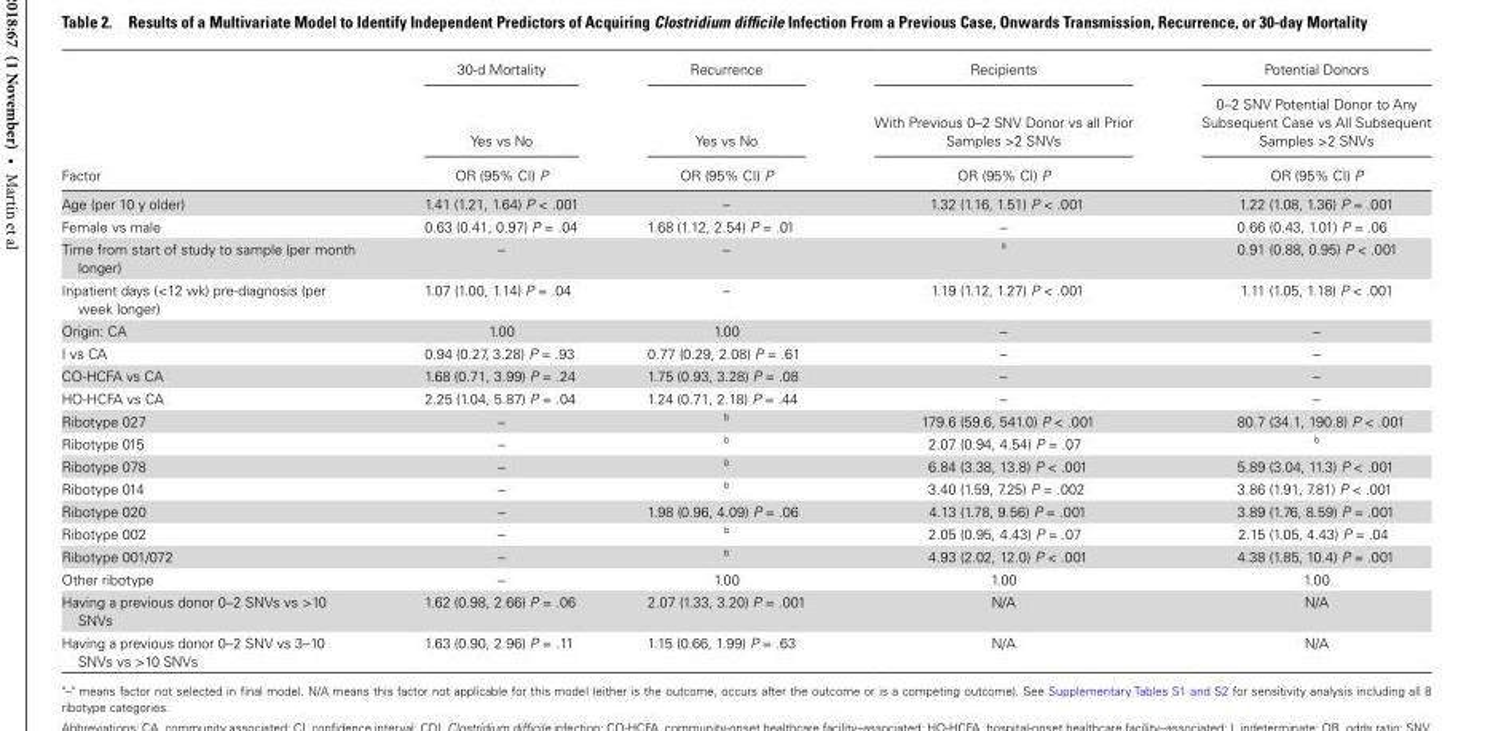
<table><thead><tr><td rowspan="3">Factor</td><td rowspan="3">30-d Mortality Yes vs No OR (95% CI) P</td><td rowspan="3">Recurrence Yes vs No OR (95% CI) P</td><td rowspan="3">Recipients With Previous 0–2 SNV Donor vs all Prior Samples &gt;2 SNVs OR (95% CI) P</td><td rowspan="3">Potential Donors 0–2 SNV Potential Donor to Any Subsequent Case vs All Subsequent Samples &gt;2 SNVs OR (95% CI) P</td></tr><tr></tr><tr></tr></thead><tbody><tr><td>Age (per 10 y older)</td><td>1.41 (1.21, 1.64) P &lt; .001</td><td>–</td><td>1.32 (1.16, 1.51) P &lt; .001</td><td>1.22 (1.08, 1.36) P = .001</td></tr><tr><td>Female vs male</td><td>0.63 (0.41, 0.97) P = .04</td><td>1.68 (1.12, 2.54) P = .01</td><td>–</td><td>0.66 (0.43, 1.01) P = .06</td></tr><tr><td>Time from start of study to sample (per month longer)</td><td>–</td><td>–</td><td><sup>a</sup></td><td>0.91 (0.88, 0.95) P &lt; .001</td></tr><tr><td>Inpatient days (&lt;12 wk) pre-diagnosis (per week longer)</td><td>1.07 (1.00, 1.14) P = .04</td><td>–</td><td>1.19 (1.12, 1.27) P &lt; .001</td><td>1.11 (1.05, 1.18) P &lt; .001</td></tr><tr><td>Origin: CA</td><td>1.00</td><td>1.00</td><td>–</td><td>–</td></tr><tr><td>I vs CA</td><td>0.94 (0.27, 3.28) P = .93</td><td>0.77 (0.29, 2.08) P = .61</td><td>–</td><td>–</td></tr><tr><td>CO-HCFA vs CA</td><td>1.68 (0.71, 3.99) P = .24</td><td>1.75 (0.93, 3.28) P = .08</td><td>–</td><td>–</td></tr><tr><td>HO-HCFA vs CA</td><td>2.25 (1.04, 5.87) P = .04</td><td>1.24 (0.71, 2.18) P = .44</td><td>–</td><td>–</td></tr><tr><td>Ribotype 027</td><td>–</td><td><sup>b</sup></td><td>179.6 (59.6, 541.0) P &lt; .001</td><td>80.7 (34.1, 190.8) P &lt; .001</td></tr><tr><td>Ribotype 015</td><td>–</td><td><sup>b</sup></td><td>2.07 (0.94, 4.54) P = .07</td><td><sup>b</sup></td></tr><tr><td>Ribotype 078</td><td>–</td><td><sup>b</sup></td><td>6.84 (3.38, 13.8) P &lt; .001</td><td>5.89 (3.04, 11.3) P &lt; .001</td></tr><tr><td>Ribotype 014</td><td>–</td><td><sup>b</sup></td><td>3.40 (1.59, 7.25) P = .002</td><td>3.86 (1.91, 7.81) P &lt; .001</td></tr><tr><td>Ribotype 020</td><td>–</td><td>1.98 (0.96, 4.09) P = .06</td><td>4.13 (1.78, 9.56) P = .001</td><td>3.89 (1.76, 8.59) P = .001</td></tr><tr><td>Ribotype 002</td><td>–</td><td><sup>b</sup></td><td>2.05 (0.95, 4.43) P = .07</td><td>2.15 (1.05, 4.43) P = .04</td></tr><tr><td>Ribotype 001/072</td><td>–</td><td><sup>b</sup></td><td>4.93 (2.02, 12.0) P &lt; .001</td><td>4.38 (1.85, 10.4) P = .001</td></tr><tr><td>Other ribotype</td><td>–</td><td>1.00</td><td>1.00</td><td>1.00</td></tr><tr><td>Having a previous donor 0–2 SNVs vs &gt;10 SNVs</td><td>1.62 (0.98, 2.66) P = .06</td><td>2.07 (1.33, 3.20) P = .001</td><td>N/A</td><td>N/A</td></tr><tr><td>Having a previous donor 0–2 SNV vs 3–10 SNVs vs &gt;10 SNVs</td><td>1.63 (0.90, 2.96) P = .11</td><td>1.15 (0.66, 1.99) P = .63</td><td>N/A</td><td>N/A</td></tr></tbody></table>